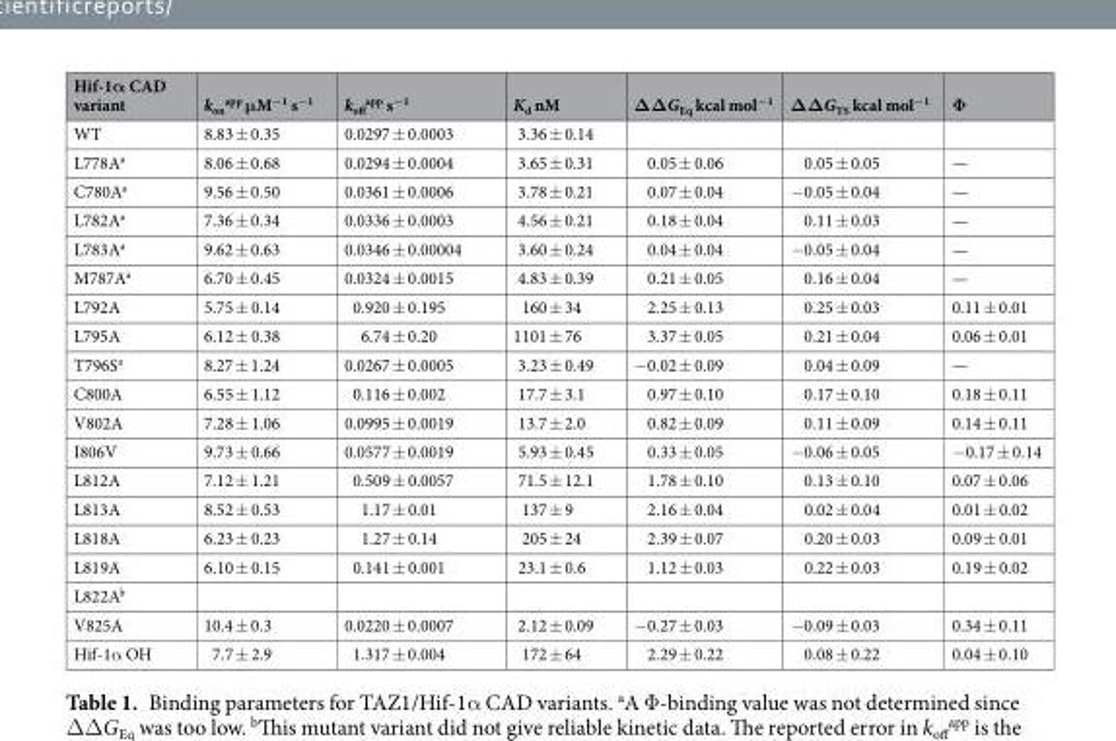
<table><thead><tr><td>Hif-1α CAD variant</td><td>k<sub>on</sub> <sup>app</sup> μM<sup>−1</sup> s<sup>−1</sup></td><td>k<sub>off</sub> <sup>app</sup> s<sup>−1</sup></td><td>K<sub>d</sub> nM</td><td>ΔΔG<sub>Eq</sub> kcal mol<sup>−1</sup></td><td>ΔΔG<sub>TS</sub> kcal mol<sup>−1</sup></td><td>Φ</td></tr></thead><tbody><tr><td>WT</td><td>8.83 ± 0.35</td><td>0.0297 ± 0.0003</td><td>3.36 ± 0.14</td><td></td><td></td><td></td></tr><tr><td>L778A<sup>a</sup></td><td>8.06 ± 0.68</td><td>0.0294 ± 0.0004</td><td>3.65 ± 0.31</td><td>0.05 ± 0.06</td><td>0.05 ± 0.05</td><td>—</td></tr><tr><td>C780A<sup>a</sup></td><td>9.56 ± 0.50</td><td>0.0361 ± 0.0006</td><td>3.78 ± 0.21</td><td>0.07 ± 0.04</td><td>−0.05 ± 0.04</td><td>—</td></tr><tr><td>L782A<sup>a</sup></td><td>7.36 ± 0.34</td><td>0.0336 ± 0.0003</td><td>4.56 ± 0.21</td><td>0.18 ± 0.04</td><td>0.11 ± 0.03</td><td>—</td></tr><tr><td>L783A<sup>a</sup></td><td>9.62 ± 0.63</td><td>0.0346 ± 0.00004</td><td>3.60 ± 0.24</td><td>0.04 ± 0.04</td><td>−0.05 ± 0.04</td><td>—</td></tr><tr><td>M787A<sup>a</sup></td><td>6.70 ± 0.45</td><td>0.0324 ± 0.0015</td><td>4.83 ± 0.39</td><td>0.21 ± 0.05</td><td>0.16 ± 0.04</td><td>—</td></tr><tr><td>L792A</td><td>5.75 ± 0.14</td><td>0.920 ± 0.195</td><td>160 ± 34</td><td>2.25 ± 0.13</td><td>0.25 ± 0.03</td><td>0.11 ± 0.01</td></tr><tr><td>L795A</td><td>6.12 ± 0.38</td><td>6.74 ± 0.20</td><td>1101 ± 76</td><td>3.37 ± 0.05</td><td>0.21 ± 0.04</td><td>0.06 ± 0.01</td></tr><tr><td>T796S<sup>a</sup></td><td>8.27 ± 1.24</td><td>0.0267 ± 0.0005</td><td>3.23 ± 0.49</td><td>−0.02 ± 0.09</td><td>0.04 ± 0.09</td><td>—</td></tr><tr><td>C800A</td><td>6.55 ± 1.12</td><td>0.116 ± 0.002</td><td>17.7 ± 3.1</td><td>0.97 ± 0.10</td><td>0.17 ± 0.10</td><td>0.18 ± 0.11</td></tr><tr><td>V802A</td><td>7.28 ± 1.06</td><td>0.0995 ± 0.0019</td><td>13.7 ± 2.0</td><td>0.82 ± 0.09</td><td>0.11 ± 0.09</td><td>0.14 ± 0.11</td></tr><tr><td>I806V</td><td>9.73 ± 0.66</td><td>0.0577 ± 0.0019</td><td>5.93 ± 0.45</td><td>0.33 ± 0.05</td><td>−0.06 ± 0.05</td><td>−0.17 ± 0.14</td></tr><tr><td>L812A</td><td>7.12 ± 1.21</td><td>0.509 ± 0.0057</td><td>71.5 ± 12.1</td><td>1.78 ± 0.10</td><td>0.13 ± 0.10</td><td>0.07 ± 0.06</td></tr><tr><td>L813A</td><td>8.52 ± 0.53</td><td>1.17 ± 0.01</td><td>137 ± 9</td><td>2.16 ± 0.04</td><td>0.02 ± 0.04</td><td>0.01 ± 0.02</td></tr><tr><td>L818A</td><td>6.23 ± 0.23</td><td>1.27 ± 0.14</td><td>205 ± 24</td><td>2.39 ± 0.07</td><td>0.20 ± 0.03</td><td>0.09 ± 0.01</td></tr><tr><td>L819A</td><td>6.10 ± 0.15</td><td>0.141 ± 0.001</td><td>23.1 ± 0.6</td><td>1.12 ± 0.03</td><td>0.22 ± 0.03</td><td>0.19 ± 0.02</td></tr><tr><td colspan="7">L822A<sup>b</sup></td></tr><tr><td>V825A</td><td>10.4 ± 0.3</td><td>0.0220 ± 0.0007</td><td>2.12 ± 0.09</td><td>−0.27 ± 0.03</td><td>−0.09 ± 0.03</td><td>0.34 ± 0.11</td></tr><tr><td>Hif-1α OH</td><td>7.7 ± 2.9</td><td>1.317 ± 0.004</td><td>172 ± 64</td><td>2.29 ± 0.22</td><td>0.08 ± 0.22</td><td>0.04 ± 0.10</td></tr></tbody></table>